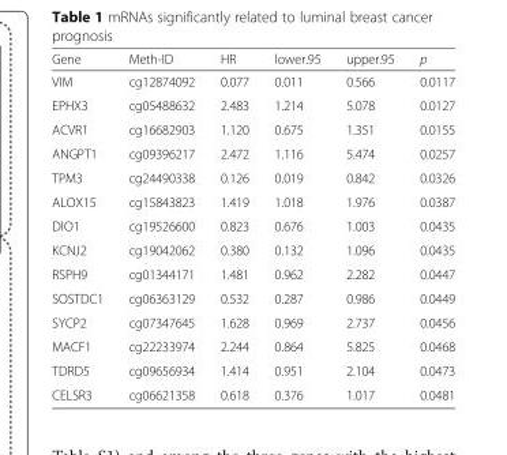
<table><thead><tr><td>Gene</td><td>Meth-ID</td><td>HR</td><td>lower.95</td><td>upper.95</td><td>p</td></tr></thead><tbody><tr><td>VIM</td><td>cg12874092</td><td>0.077</td><td>0.011</td><td>0.566</td><td>0.0117</td></tr><tr><td>EPHX3</td><td>cg05488632</td><td>2.483</td><td>1.214</td><td>5.078</td><td>0.0127</td></tr><tr><td>ACVR1</td><td>cg16682903</td><td>1.120</td><td>0.675</td><td>1.351</td><td>0.0155</td></tr><tr><td>ANGPT1</td><td>cg09396217</td><td>2.472</td><td>1.116</td><td>5.474</td><td>0.0257</td></tr><tr><td>TPM3</td><td>cg24490338</td><td>0.126</td><td>0.019</td><td>0.842</td><td>0.0326</td></tr><tr><td>ALOX15</td><td>cg15843823</td><td>1.419</td><td>1.018</td><td>1.976</td><td>0.0387</td></tr><tr><td>DIO1</td><td>cg19526600</td><td>0.823</td><td>0.676</td><td>1.003</td><td>0.0435</td></tr><tr><td>KCNJ2</td><td>cg19042062</td><td>0.380</td><td>0.132</td><td>1.096</td><td>0.0435</td></tr><tr><td>RSPH9</td><td>cg01344171</td><td>1.481</td><td>0.962</td><td>2.282</td><td>0.0447</td></tr><tr><td>SOSTDC1</td><td>cg06363129</td><td>0.532</td><td>0.287</td><td>0.986</td><td>0.0449</td></tr><tr><td>SYCP2</td><td>cg07347645</td><td>1.628</td><td>0.969</td><td>2.737</td><td>0.0456</td></tr><tr><td>MACF1</td><td>cg22233974</td><td>2.244</td><td>0.864</td><td>5.825</td><td>0.0468</td></tr><tr><td>TDRD5</td><td>cg09656934</td><td>1.414</td><td>0.951</td><td>2.104</td><td>0.0473</td></tr><tr><td>CELSR3</td><td>cg06621358</td><td>0.618</td><td>0.376</td><td>1.017</td><td>0.0481</td></tr></tbody></table>